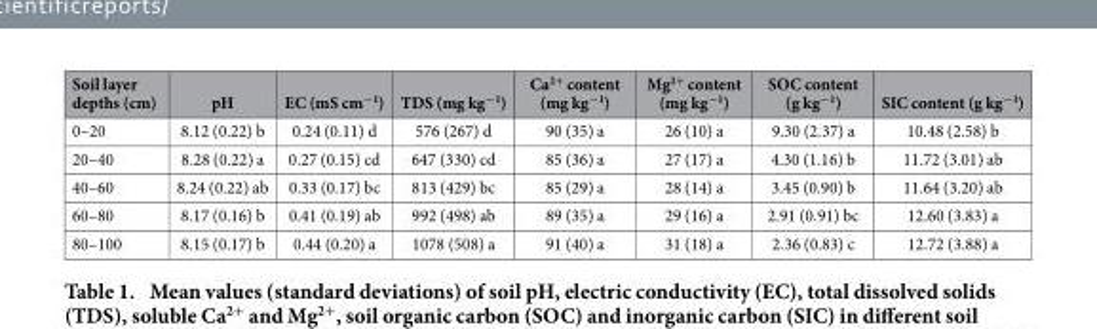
<table><thead><tr><td>Soil layer depths (cm)</td><td>pH</td><td>EC (mS cm<sup>−1</sup>)</td><td>TDS (mg kg<sup>−1</sup>)</td><td>Ca<sup>2+</sup> content (mg kg<sup>−1</sup>)</td><td>Mg<sup>2+</sup> content (mg kg<sup>−1</sup>)</td><td>SOC content (g kg<sup>−1</sup>)</td><td>SIC content (g kg<sup>−1</sup>)</td></tr></thead><tbody><tr><td>0–20</td><td>8.12 (0.22) b</td><td>0.24 (0.11) d</td><td>576 (267) d</td><td>90 (35) a</td><td>26 (10) a</td><td>9.30 (2.37) a</td><td>10.48 (2.58) b</td></tr><tr><td>20–40</td><td>8.28 (0.22) a</td><td>0.27 (0.15) cd</td><td>647 (330) cd</td><td>85 (36) a</td><td>27 (17) a</td><td>4.30 (1.16) b</td><td>11.72 (3.01) ab</td></tr><tr><td>40–60</td><td>8.24 (0.22) ab</td><td>0.33 (0.17) bc</td><td>813 (429) bc</td><td>85 (29) a</td><td>28 (14) a</td><td>3.45 (0.90) b</td><td>11.64 (3.20) ab</td></tr><tr><td>60–80</td><td>8.17 (0.16) b</td><td>0.41 (0.19) ab</td><td>992 (498) ab</td><td>89 (35) a</td><td>29 (16) a</td><td>2.91 (0.91) bc</td><td>12.60 (3.83) a</td></tr><tr><td>80–100</td><td>8.15 (0.17) b</td><td>0.44 (0.20) a</td><td>1078 (508) a</td><td>91 (40) a</td><td>31 (18) a</td><td>2.36 (0.83) c</td><td>12.72 (3.88) a</td></tr></tbody></table>